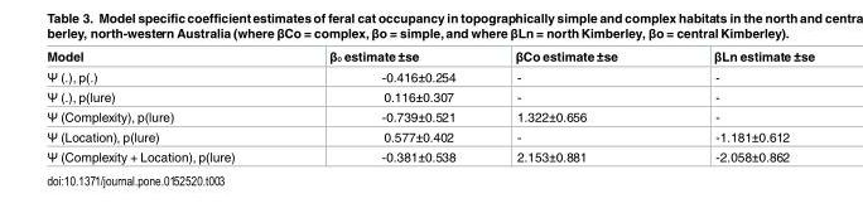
<table><thead><tr><td>Model</td><td>β₀ estimate ±se</td><td>βCo estimate ±se</td><td>βLn estimate ±se</td></tr></thead><tbody><tr><td>Ψ (.), p(.)</td><td>-0.416±0.254</td><td>-</td><td>-</td></tr><tr><td>Ψ (.), p(lure)</td><td>0.116±0.307</td><td>-</td><td>-</td></tr><tr><td>Ψ (Complexity), p(lure)</td><td>-0.739±0.521</td><td>1.322±0.656</td><td>-</td></tr><tr><td>Ψ (Location), p(lure)</td><td>0.577±0.402</td><td>-</td><td>-1.181±0.612</td></tr><tr><td>Ψ (Complexity + Location), p(lure)</td><td>-0.381±0.538</td><td>2.153±0.881</td><td>-2.058±0.862</td></tr></tbody></table>